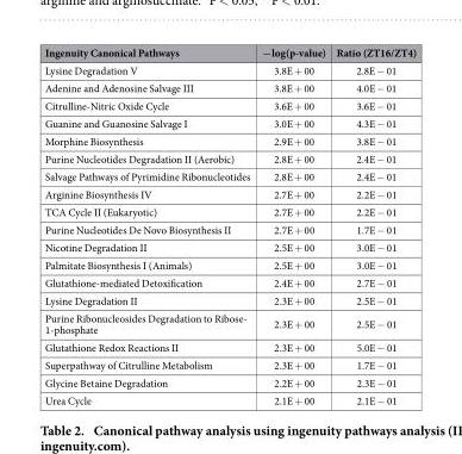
<table><thead><tr><td>Ingenuity Canonical Pathways</td><td>−log(p-value)</td><td>Ratio (ZT16/ZT4)</td></tr></thead><tbody><tr><td>Lysine Degradation V</td><td>3.8E + 00</td><td>2.8E − 01</td></tr><tr><td>Adenine and Adenosine Salvage III</td><td>3.8E + 00</td><td>4.0E − 01</td></tr><tr><td>Citrulline-Nitric Oxide Cycle</td><td>3.6E + 00</td><td>3.6E − 01</td></tr><tr><td>Guanine and Guanosine Salvage I</td><td>3.0E + 00</td><td>4.3E − 01</td></tr><tr><td>Morphine Biosynthesis</td><td>2.9E + 00</td><td>3.8E − 01</td></tr><tr><td>Purine Nucleotides Degradation II (Aerobic)</td><td>2.8E + 00</td><td>2.4E − 01</td></tr><tr><td>Salvage Pathways of Pyrimidine Ribonucleotides</td><td>2.8E + 00</td><td>2.4E − 01</td></tr><tr><td>Arginine Biosynthesis IV</td><td>2.7E + 00</td><td>2.2E − 01</td></tr><tr><td>TCA Cycle II (Eukaryotic)</td><td>2.7E + 00</td><td>2.2E − 01</td></tr><tr><td>Purine Nucleotides De Novo Biosynthesis II</td><td>2.7E + 00</td><td>1.7E − 01</td></tr><tr><td>Nicotine Degradation II</td><td>2.5E + 00</td><td>3.0E − 01</td></tr><tr><td>Palmitate Biosynthesis I (Animals)</td><td>2.5E + 00</td><td>3.0E − 01</td></tr><tr><td>Glutathione-mediated Detoxification</td><td>2.4E + 00</td><td>2.7E − 01</td></tr><tr><td>Lysine Degradation II</td><td>2.3E + 00</td><td>2.5E − 01</td></tr><tr><td>Purine Ribonucleosides Degradation to Ribose- 1-phosphate</td><td>2.3E + 00</td><td>2.5E − 01</td></tr><tr><td>Glutathione Redox Reactions II</td><td>2.3E + 00</td><td>5.0E − 01</td></tr><tr><td>Superpathway of Citrulline Metabolism</td><td>2.3E + 00</td><td>1.7E − 01</td></tr><tr><td>Glycine Betaine Degradation</td><td>2.2E + 00</td><td>2.3E − 01</td></tr><tr><td>Urea Cycle</td><td>2.1E + 00</td><td>2.1E − 01</td></tr></tbody></table>